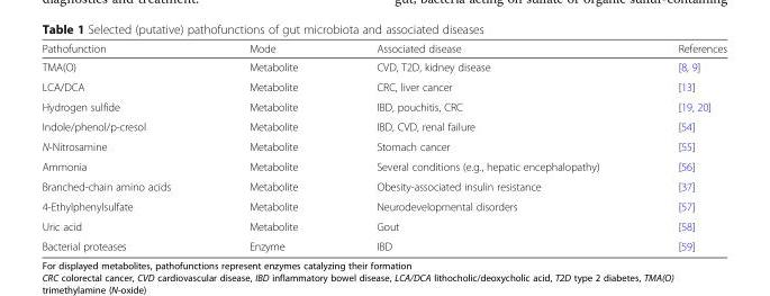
<table><thead><tr><td>Pathofunction</td><td>Mode</td><td>Associated disease</td><td>References</td></tr></thead><tbody><tr><td>TMA(O)</td><td>Metabolite</td><td>CVD, T2D, kidney disease</td><td>[8, 9]</td></tr><tr><td>LCA/DCA</td><td>Metabolite</td><td>CRC, liver cancer</td><td>[13]</td></tr><tr><td>Hydrogen sulfide</td><td>Metabolite</td><td>IBD, pouchitis, CRC</td><td>[19, 20]</td></tr><tr><td>Indole/phenol/p-cresol</td><td>Metabolite</td><td>IBD, CVD, renal failure</td><td>[54]</td></tr><tr><td>N-Nitrosamine</td><td>Metabolite</td><td>Stomach cancer</td><td>[55]</td></tr><tr><td>Ammonia</td><td>Metabolite</td><td>Several conditions (e.g., hepatic encephalopathy)</td><td>[56]</td></tr><tr><td>Branched-chain amino acids</td><td>Metabolite</td><td>Obesity-associated insulin resistance</td><td>[37]</td></tr><tr><td>4-Ethylphenylsulfate</td><td>Metabolite</td><td>Neurodevelopmental disorders</td><td>[57]</td></tr><tr><td>Uric acid</td><td>Metabolite</td><td>Gout</td><td>[58]</td></tr><tr><td>Bacterial proteases</td><td>Enzyme</td><td>IBD</td><td>[59]</td></tr></tbody></table>